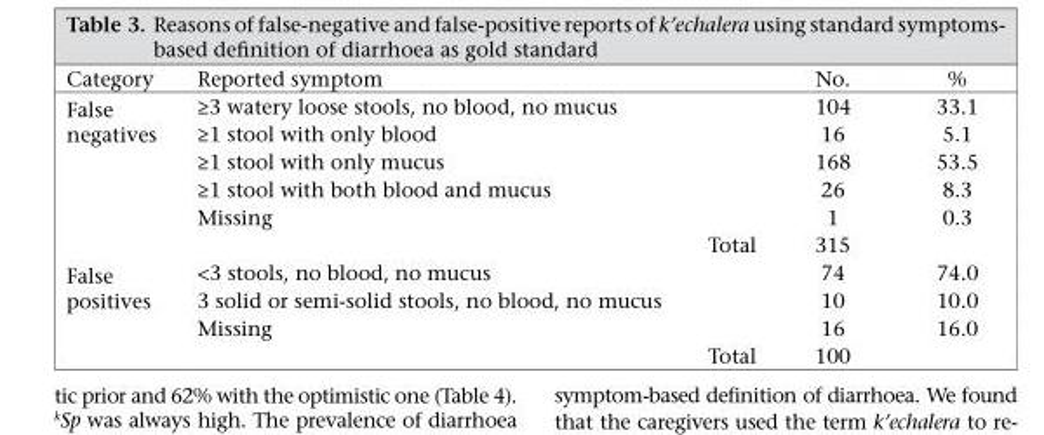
<table><thead><tr><td>Category</td><td>Reported symptom</td><td>No.</td><td>%</td></tr></thead><tbody><tr><td rowspan="6">False negatives</td><td>≥3 watery loose stools, no blood, no mucus</td><td>104</td><td>33.1</td></tr><tr><td>≥1 stool with only blood</td><td>16</td><td>5.1</td></tr><tr><td>≥1 stool with only mucus</td><td>168</td><td>53.5</td></tr><tr><td>≥1 stool with both blood and mucus</td><td>26</td><td>8.3</td></tr><tr><td>Missing</td><td>1</td><td>0.3</td></tr><tr><td>Total</td><td>315</td><td></td></tr><tr><td rowspan="4">False positives</td><td>&lt;3 stools, no blood, no mucus</td><td>74</td><td>74.0</td></tr><tr><td>3 solid or semi-solid stools, no blood, no mucus</td><td>10</td><td>10.0</td></tr><tr><td>Missing</td><td>16</td><td>16.0</td></tr><tr><td>Total</td><td>100</td><td></td></tr></tbody></table>